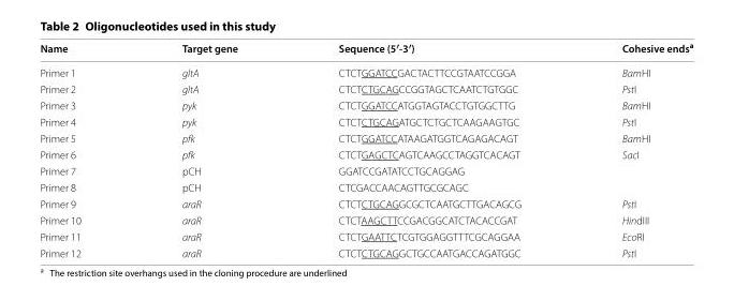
<table><thead><tr><td>Name</td><td>Target gene</td><td>Sequence (5′-3′)</td><td>Cohesive ends<sup>a</sup></td></tr></thead><tbody><tr><td>Primer 1</td><td>gltA</td><td>CTCT GGA TCC GAC TAC TTC CGT AAT CCG GA</td><td>BamHI</td></tr><tr><td>Primer 2</td><td>gltA</td><td>CTCT CTG CAG CCG GTA GCT CAA TCT GTG GC</td><td>PstI</td></tr><tr><td>Primer 3</td><td>pyk</td><td>CTCT GGA TCC ATG GTA GTA CCT GTG GCT TG</td><td>BamHI</td></tr><tr><td>Primer 4</td><td>pyk</td><td>CTCT CTG CAG ATG CTC TGC TCA AGA AGT GC</td><td>PstI</td></tr><tr><td>Primer 5</td><td>pfk</td><td>CTCT GGA TCC ATA AGA TGG TCA GAG ACA GT</td><td>BamHI</td></tr><tr><td>Primer 6</td><td>pfk</td><td>CTCT GAG CTC AGT CAA GCC TAG GTC ACA GT</td><td>SacI</td></tr><tr><td>Primer 7</td><td>pCH</td><td>GGA TCC GAT ATC CTG CAG GAG</td><td></td></tr><tr><td>Primer 8</td><td>pCH</td><td>CTC GAC CAA CAG TTG CGC AGC</td><td></td></tr><tr><td>Primer 9</td><td>araR</td><td>CTCT CTG CAG GCG CTC AAT GCT TGA CAG CG</td><td>PstI</td></tr><tr><td>Primer 10</td><td>araR</td><td>CTCT AAG CTT CCG ACG GCA TCT ACA CCG AT</td><td>HindIII</td></tr><tr><td>Primer 11</td><td>araR</td><td>CTCT GAA TTC TCG TGG AGG TTT CGC AGG AA</td><td>EcoRI</td></tr><tr><td>Primer 12</td><td>araR</td><td>CTCT CTG CAG GCT GCC AAT GAC CAG ATG GC</td><td>PstI</td></tr></tbody></table>